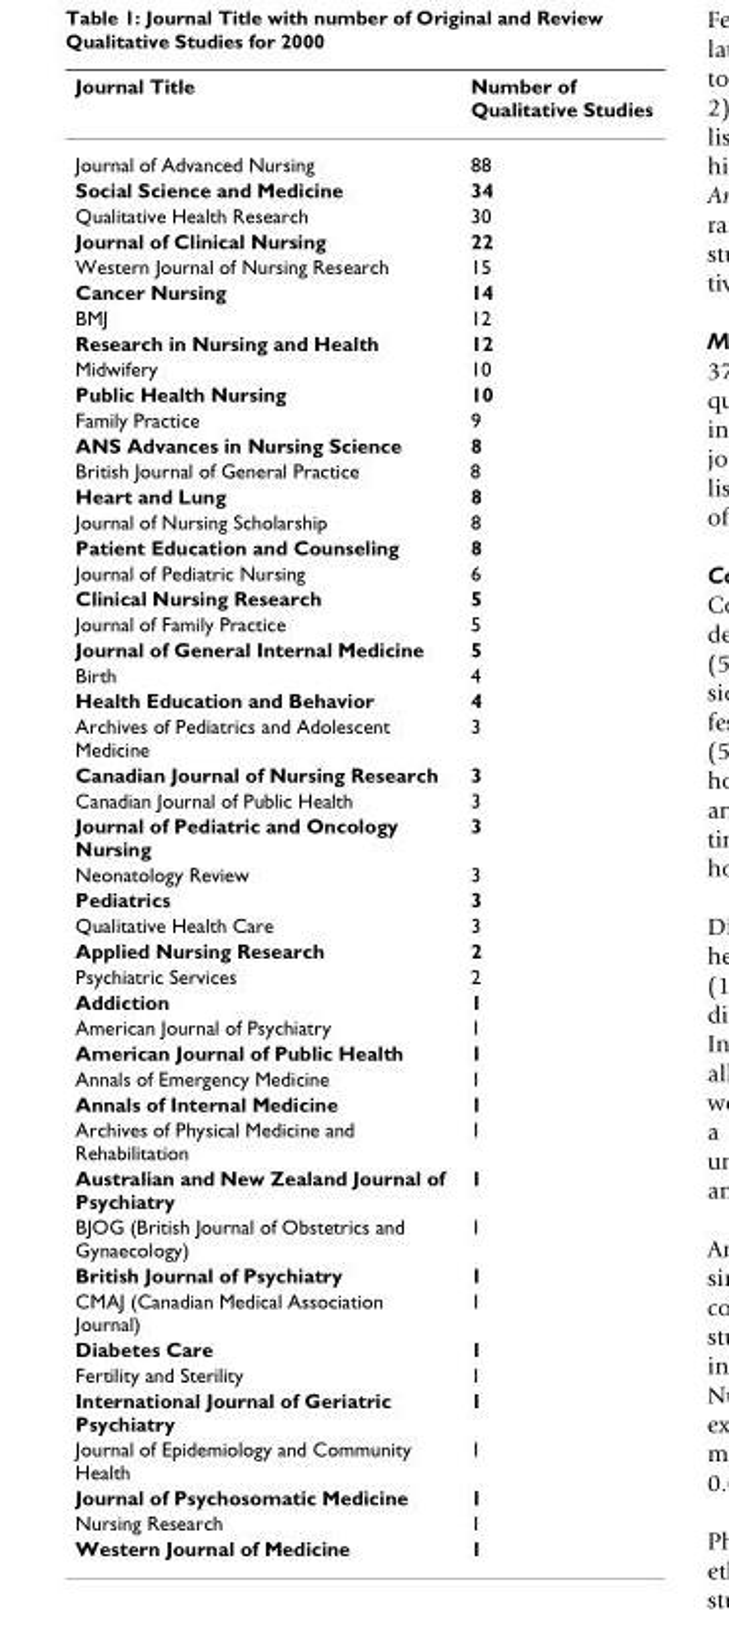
<table><thead><tr><td>Journal Title</td><td>Number of Qualitative Studies</td></tr></thead><tbody><tr><td>Journal of Advanced Nursing</td><td>88</td></tr><tr><td>Social Science and Medicine</td><td>34</td></tr><tr><td>Qualitative Health Research</td><td>30</td></tr><tr><td>Journal of Clinical Nursing</td><td>22</td></tr><tr><td>Western Journal of Nursing Research</td><td>15</td></tr><tr><td>Cancer Nursing</td><td>14</td></tr><tr><td>BMJ</td><td>12</td></tr><tr><td>Research in Nursing and Health</td><td>12</td></tr><tr><td>Midwifery</td><td>10</td></tr><tr><td>Public Health Nursing</td><td>10</td></tr><tr><td>Family Practice</td><td>9</td></tr><tr><td>ANS Advances in Nursing Science</td><td>8</td></tr><tr><td>British Journal of General Practice</td><td>8</td></tr><tr><td>Heart and Lung</td><td>8</td></tr><tr><td>Journal of Nursing Scholarship</td><td>8</td></tr><tr><td>Patient Education and Counseling</td><td>8</td></tr><tr><td>Journal of Pediatric Nursing</td><td>6</td></tr><tr><td>Clinical Nursing Research</td><td>5</td></tr><tr><td>Journal of Family Practice</td><td>5</td></tr><tr><td>Journal of General Internal Medicine</td><td>5</td></tr><tr><td>Birth</td><td>4</td></tr><tr><td>Health Education and Behavior</td><td>4</td></tr><tr><td>Archives of Pediatrics and Adolescent Medicine</td><td>3</td></tr><tr><td>Canadian Journal of Nursing Research</td><td>3</td></tr><tr><td>Canadian Journal of Public Health</td><td>3</td></tr><tr><td>Journal of Pediatric and Oncology Nursing</td><td>3</td></tr><tr><td>Neonatology Review</td><td>3</td></tr><tr><td>Pediatrics</td><td>3</td></tr><tr><td>Qualitative Health Care</td><td>3</td></tr><tr><td>Applied Nursing Research</td><td>2</td></tr><tr><td>Psychiatric Services</td><td>2</td></tr><tr><td>Addiction</td><td>1</td></tr><tr><td>American Journal of Psychiatry</td><td>1</td></tr><tr><td>American Journal of Public Health</td><td>1</td></tr><tr><td>Annals of Emergency Medicine</td><td>1</td></tr><tr><td>Annals of Internal Medicine</td><td>1</td></tr><tr><td>Archives of Physical Medicine and Rehabilitation</td><td>1</td></tr><tr><td>Australian and New Zealand Journal of Psychiatry</td><td>1</td></tr><tr><td>BJOG (British Journal of Obstetrics and Gynaecology)</td><td>1</td></tr><tr><td>British Journal of Psychiatry</td><td>1</td></tr><tr><td>CMAJ (Canadian Medical Association Journal)</td><td>1</td></tr><tr><td>Diabetes Care</td><td>1</td></tr><tr><td>Fertility and Sterility</td><td>1</td></tr><tr><td>International Journal of Geriatric Psychiatry</td><td>1</td></tr><tr><td>Journal of Epidemiology and Community Health</td><td>1</td></tr><tr><td>Journal of Psychosomatic Medicine</td><td>1</td></tr><tr><td>Nursing Research</td><td>1</td></tr><tr><td>Western Journal of Medicine</td><td>1</td></tr></tbody></table>